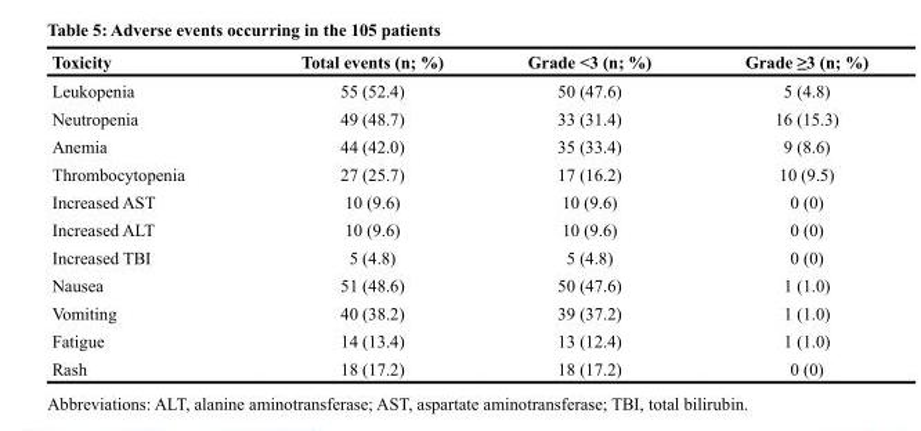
<table><thead><tr><td>Toxicity</td><td>Total events (n; %)</td><td>Grade &lt;3 (n; %)</td><td>Grade ≥3 (n; %)</td></tr></thead><tbody><tr><td>Leukopenia</td><td>55 (52.4)</td><td>50 (47.6)</td><td>5 (4.8)</td></tr><tr><td>Neutropenia</td><td>49 (48.7)</td><td>33 (31.4)</td><td>16 (15.3)</td></tr><tr><td>Anemia</td><td>44 (42.0)</td><td>35 (33.4)</td><td>9 (8.6)</td></tr><tr><td>Thrombocytopenia</td><td>27 (25.7)</td><td>17 (16.2)</td><td>10 (9.5)</td></tr><tr><td>Increased AST</td><td>10 (9.6)</td><td>10 (9.6)</td><td>0 (0)</td></tr><tr><td>Increased ALT</td><td>10 (9.6)</td><td>10 (9.6)</td><td>0 (0)</td></tr><tr><td>Increased TBI</td><td>5 (4.8)</td><td>5 (4.8)</td><td>0 (0)</td></tr><tr><td>Nausea</td><td>51 (48.6)</td><td>50 (47.6)</td><td>1 (1.0)</td></tr><tr><td>Vomiting</td><td>40 (38.2)</td><td>39 (37.2)</td><td>1 (1.0)</td></tr><tr><td>Fatigue</td><td>14 (13.4)</td><td>13 (12.4)</td><td>1 (1.0)</td></tr><tr><td>Rash</td><td>18 (17.2)</td><td>18 (17.2)</td><td>0 (0)</td></tr></tbody></table>